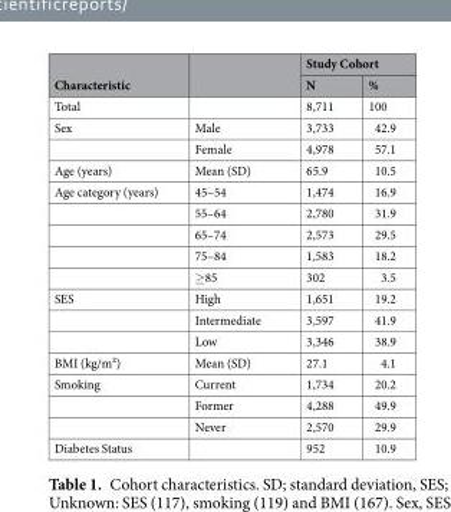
<table><thead><tr><td rowspan="2">Characteristic</td><td rowspan="2"></td><td colspan="2">Study Cohort</td></tr><tr><td>N</td><td>%</td></tr></thead><tbody><tr><td>Total</td><td></td><td>8,711</td><td>100</td></tr><tr><td rowspan="2">Sex</td><td>Male</td><td>3,733</td><td>42.9</td></tr><tr><td>Female</td><td>4,978</td><td>57.1</td></tr><tr><td>Age (years)</td><td>Mean (SD)</td><td>65.9</td><td>10.5</td></tr><tr><td rowspan="5">Age category (years)</td><td>45–54</td><td>1,474</td><td>16.9</td></tr><tr><td>55–64</td><td>2,780</td><td>31.9</td></tr><tr><td>65–74</td><td>2,573</td><td>29.5</td></tr><tr><td>75–84</td><td>1,583</td><td>18.2</td></tr><tr><td>≥85</td><td>302</td><td>3.5</td></tr><tr><td rowspan="3">SES</td><td>High</td><td>1,651</td><td>19.2</td></tr><tr><td>Intermediate</td><td>3,597</td><td>41.9</td></tr><tr><td>Low</td><td>3,346</td><td>38.9</td></tr><tr><td>BMI (kg/m²)</td><td>Mean (SD)</td><td>27.1</td><td>4.1</td></tr><tr><td rowspan="3">Smoking</td><td>Current</td><td>1,734</td><td>20.2</td></tr><tr><td>Former</td><td>4,288</td><td>49.9</td></tr><tr><td>Never</td><td>2,570</td><td>29.9</td></tr><tr><td>Diabetes Status</td><td></td><td>952</td><td>10.9</td></tr></tbody></table>